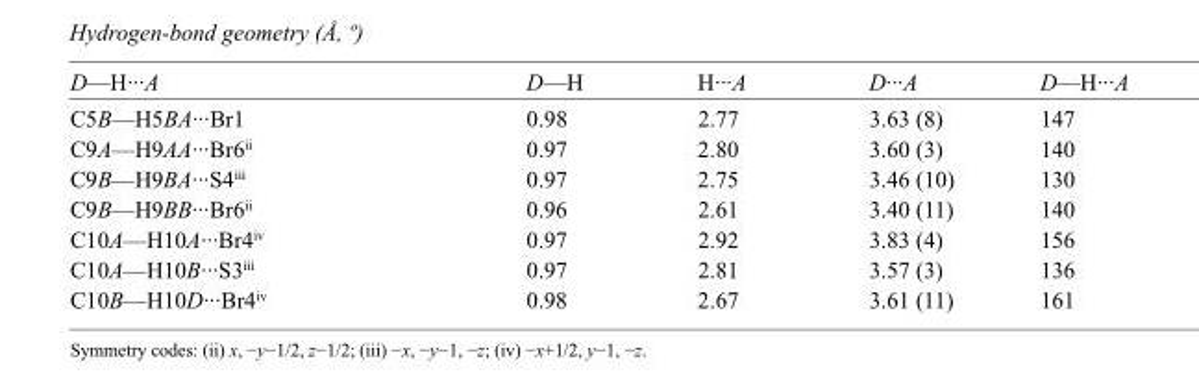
<table><tbody><tr><td>D—H···A</td><td>D—H</td><td>H···A</td><td>D···A</td><td>D—H···A</td></tr><tr><td>C5B—H5BA···Br1</td><td>0.98</td><td>2.77</td><td>3.63 (8)</td><td>147</td></tr><tr><td>C9A—H9AA···Br6<sup>ii</sup></td><td>0.97</td><td>2.80</td><td>3.60 (3)</td><td>140</td></tr><tr><td>C9B—H9BA···S4<sup>iii</sup></td><td>0.97</td><td>2.75</td><td>3.46 (10)</td><td>130</td></tr><tr><td>C9B—H9BB···Br6<sup>ii</sup></td><td>0.96</td><td>2.61</td><td>3.40 (11)</td><td>140</td></tr><tr><td>C10A—H10A···Br4<sup>iv</sup></td><td>0.97</td><td>2.92</td><td>3.83 (4)</td><td>156</td></tr><tr><td>C10A—H10B···S3<sup>iii</sup></td><td>0.97</td><td>2.81</td><td>3.57 (3)</td><td>136</td></tr><tr><td>C10B—H10D···Br4<sup>iv</sup></td><td>0.98</td><td>2.67</td><td>3.61 (11)</td><td>161</td></tr></tbody></table>